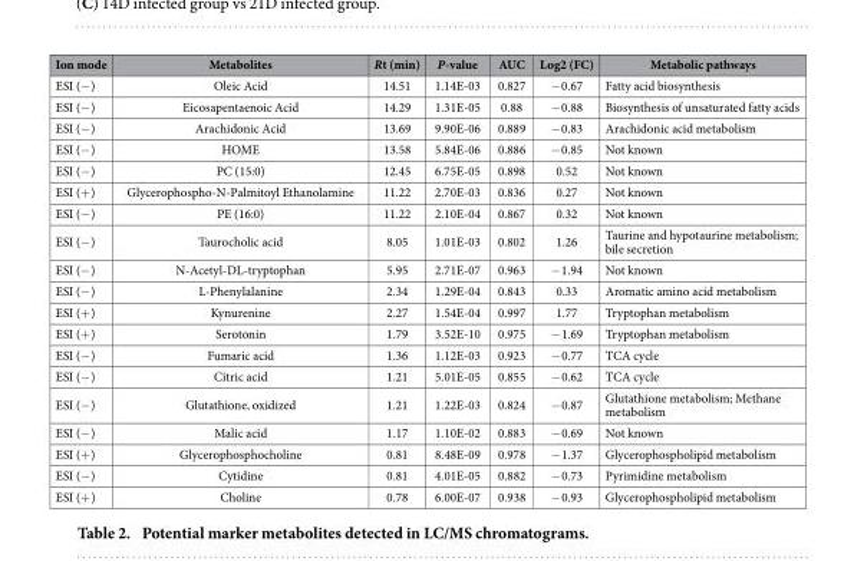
<table><thead><tr><td>Ion mode</td><td>Metabolites</td><td>Rt (min)</td><td>P-value</td><td>AUC</td><td>Log2 (FC)</td><td>Metabolic pathways</td></tr></thead><tbody><tr><td>ESI (− )</td><td>Oleic Acid</td><td>14.51</td><td>1.14E-03</td><td>0.827</td><td>− 0.67</td><td>Fatty acid biosynthesis</td></tr><tr><td>ESI (− )</td><td>Eicosapentaenoic Acid</td><td>14.29</td><td>1.31E-05</td><td>0.88</td><td>− 0.88</td><td>Biosynthesis of unsaturated fatty acids</td></tr><tr><td>ESI (− )</td><td>Arachidonic Acid</td><td>13.69</td><td>9.90E-06</td><td>0.889</td><td>− 0.83</td><td>Arachidonic acid metabolism</td></tr><tr><td>ESI (− )</td><td>HOME</td><td>13.58</td><td>5.84E-06</td><td>0.886</td><td>− 0.85</td><td>Not known</td></tr><tr><td>ESI (− )</td><td>PC (15:0)</td><td>12.45</td><td>6.75E-05</td><td>0.898</td><td>0.52</td><td>Not known</td></tr><tr><td>ESI (+ )</td><td>Glycerophospho-N-Palmitoyl Ethanolamine</td><td>11.22</td><td>2.70E-03</td><td>0.836</td><td>0.27</td><td>Not known</td></tr><tr><td>ESI (− )</td><td>PE (16:0)</td><td>11.22</td><td>2.10E-04</td><td>0.867</td><td>0.32</td><td>Not known</td></tr><tr><td>ESI (− )</td><td>Taurocholic acid</td><td>8.05</td><td>1.01E-03</td><td>0.802</td><td>1.26</td><td>Taurine and hypotaurine metabolism; bile secretion</td></tr><tr><td>ESI (− )</td><td>N-Acetyl-DL-tryptophan</td><td>5.95</td><td>2.71E-07</td><td>0.963</td><td>− 1.94</td><td>Not known</td></tr><tr><td>ESI (− )</td><td>L-Phenylalanine</td><td>2.34</td><td>1.29E-04</td><td>0.843</td><td>0.33</td><td>Aromatic amino acid metabolism</td></tr><tr><td>ESI (+ )</td><td>Kynurenine</td><td>2.27</td><td>1.54E-04</td><td>0.997</td><td>1.77</td><td>Tryptophan metabolism</td></tr><tr><td>ESI (+ )</td><td>Serotonin</td><td>1.79</td><td>3.52E-10</td><td>0.975</td><td>− 1.69</td><td>Tryptophan metabolism</td></tr><tr><td>ESI (− )</td><td>Fumaric acid</td><td>1.36</td><td>1.12E-03</td><td>0.923</td><td>− 0.77</td><td>TCA cycle</td></tr><tr><td>ESI (− )</td><td>Citric acid</td><td>1.21</td><td>5.01E-05</td><td>0.855</td><td>− 0.62</td><td>TCA cycle</td></tr><tr><td>ESI (− )</td><td>Glutathione, oxidized</td><td>1.21</td><td>1.22E-03</td><td>0.824</td><td>− 0.87</td><td>Glutathione metabolism; Methane metabolism</td></tr><tr><td>ESI (− )</td><td>Malic acid</td><td>1.17</td><td>1.10E-02</td><td>0.883</td><td>− 0.69</td><td>Not known</td></tr><tr><td>ESI (+ )</td><td>Glycerophosphocholine</td><td>0.81</td><td>8.48E-09</td><td>0.978</td><td>− 1.37</td><td>Glycerophospholipid metabolism</td></tr><tr><td>ESI (− )</td><td>Cytidine</td><td>0.81</td><td>4.01E-05</td><td>0.882</td><td>− 0.73</td><td>Pyrimidine metabolism</td></tr><tr><td>ESI (+ )</td><td>Choline</td><td>0.78</td><td>6.00E-07</td><td>0.938</td><td>− 0.93</td><td>Glycerophospholipid metabolism</td></tr></tbody></table>